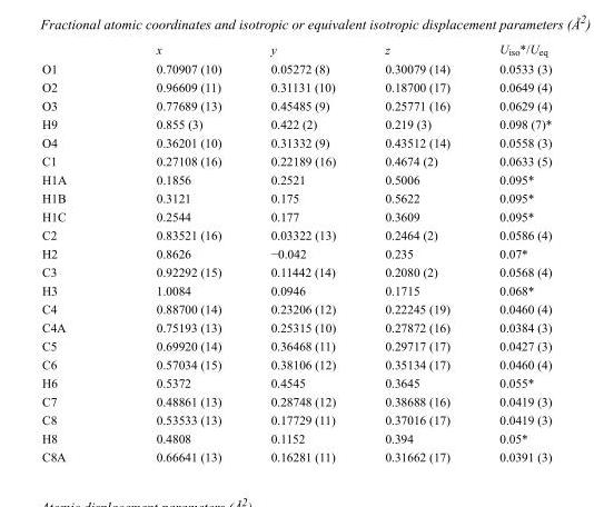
<table><thead><tr><td></td><td>x</td><td>y</td><td>z</td><td>U<sub>iso</sub>*/U<sub>eq</sub></td></tr></thead><tbody><tr><td>O1</td><td>0.70907 (10)</td><td>0.05272 (8)</td><td>0.30079 (14)</td><td>0.0533 (3)</td></tr><tr><td>O2</td><td>0.96609 (11)</td><td>0.31131 (10)</td><td>0.18700 (17)</td><td>0.0649 (4)</td></tr><tr><td>O3</td><td>0.77689 (13)</td><td>0.45485 (9)</td><td>0.25771 (16)</td><td>0.0629 (4)</td></tr><tr><td>H9</td><td>0.855 (3)</td><td>0.422 (2)</td><td>0.219 (3)</td><td>0.098 (7)*</td></tr><tr><td>O4</td><td>0.36201 (10)</td><td>0.31332 (9)</td><td>0.43512 (14)</td><td>0.0558 (3)</td></tr><tr><td>C1</td><td>0.27108 (16)</td><td>0.22189 (16)</td><td>0.4674 (2)</td><td>0.0633 (5)</td></tr><tr><td>H1A</td><td>0.1856</td><td>0.2521</td><td>0.5006</td><td>0.095*</td></tr><tr><td>H1B</td><td>0.3121</td><td>0.175</td><td>0.5622</td><td>0.095*</td></tr><tr><td>H1C</td><td>0.2544</td><td>0.177</td><td>0.3609</td><td>0.095*</td></tr><tr><td>C2</td><td>0.83521 (16)</td><td>0.03322 (13)</td><td>0.2464 (2)</td><td>0.0586 (4)</td></tr><tr><td>H2</td><td>0.8626</td><td>−0.042</td><td>0.235</td><td>0.07*</td></tr><tr><td>C3</td><td>0.92292 (15)</td><td>0.11442 (14)</td><td>0.2080 (2)</td><td>0.0568 (4)</td></tr><tr><td>H3</td><td>1.0084</td><td>0.0946</td><td>0.1715</td><td>0.068*</td></tr><tr><td>C4</td><td>0.88700 (14)</td><td>0.23206 (12)</td><td>0.22245 (19)</td><td>0.0460 (4)</td></tr><tr><td>C4A</td><td>0.75193 (13)</td><td>0.25315 (10)</td><td>0.27872 (16)</td><td>0.0384 (3)</td></tr><tr><td>C5</td><td>0.69920 (14)</td><td>0.36468 (11)</td><td>0.29717 (17)</td><td>0.0427 (3)</td></tr><tr><td>C6</td><td>0.57034 (15)</td><td>0.38106 (12)</td><td>0.35134 (17)</td><td>0.0460 (4)</td></tr><tr><td>H6</td><td>0.5372</td><td>0.4545</td><td>0.3645</td><td>0.055*</td></tr><tr><td>C7</td><td>0.48861 (13)</td><td>0.28748 (12)</td><td>0.38688 (16)</td><td>0.0419 (3)</td></tr><tr><td>C8</td><td>0.53533 (13)</td><td>0.17729 (11)</td><td>0.37016 (17)</td><td>0.0419 (3)</td></tr><tr><td>H8</td><td>0.4808</td><td>0.1152</td><td>0.394</td><td>0.05*</td></tr><tr><td>C8A</td><td>0.66641 (13)</td><td>0.16281 (11)</td><td>0.31662 (17)</td><td>0.0391 (3)</td></tr></tbody></table>